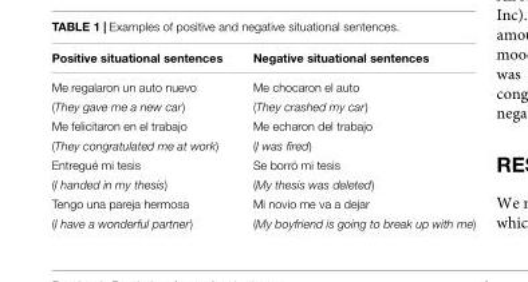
<table><thead><tr><td>Positive situational sentences</td><td>Negative situational sentences</td></tr></thead><tbody><tr><td>Me regalaron un auto nuevo</td><td>Me chocaron el auto</td></tr><tr><td>(They gave me a new car)</td><td>(They crashed my car)</td></tr><tr><td>Me felicitaron en el trabajo</td><td>Me echaron del trabajo</td></tr><tr><td>(They congratulated me at work)</td><td>(I was fired)</td></tr><tr><td>Entregué mi tesis</td><td>Se borró mi tesis</td></tr><tr><td>(I handed in my thesis)</td><td>(My thesis was deleted)</td></tr><tr><td>Tengo una pareja hermosa</td><td>Mi novio me va a dejar</td></tr><tr><td>(I have a wonderful partner)</td><td>(My boyfriend is going to break up with me)</td></tr></tbody></table>